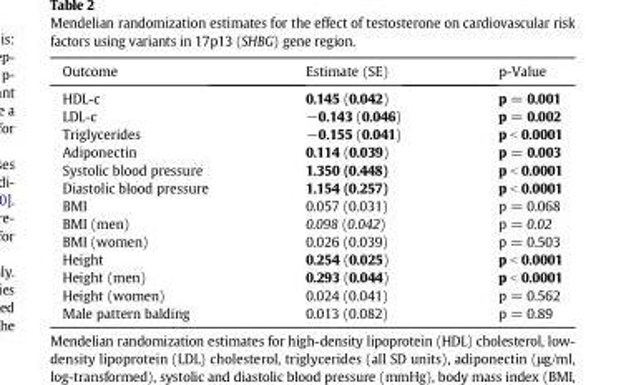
<table><thead><tr><td>Outcome</td><td>Estimate (SE)</td><td>p-Value</td></tr></thead><tbody><tr><td>HDL-c</td><td>0.145 (0.042)</td><td>p = 0.001</td></tr><tr><td>LDL-c</td><td>−0.143 (0.046)</td><td>p = 0.002</td></tr><tr><td>Triglycerides</td><td>−0.155 (0.041)</td><td>p &lt; 0.0001</td></tr><tr><td>Adiponectin</td><td>0.114 (0.039)</td><td>p = 0.003</td></tr><tr><td>Systolic blood pressure</td><td>1.350 (0.448)</td><td>p &lt; 0.0001</td></tr><tr><td>Diastolic blood pressure</td><td>1.154 (0.257)</td><td>p &lt; 0.0001</td></tr><tr><td>BMI</td><td>0.057 (0.031)</td><td>p = 0.068</td></tr><tr><td>BMI (men)</td><td>0.098 (0.042)</td><td>p = 0.02</td></tr><tr><td>BMI (women)</td><td>0.026 (0.039)</td><td>p = 0.503</td></tr><tr><td>Height</td><td>0.254 (0.025)</td><td>p &lt; 0.0001</td></tr><tr><td>Height (men)</td><td>0.293 (0.044)</td><td>p &lt; 0.0001</td></tr><tr><td>Height (women)</td><td>0.024 (0.041)</td><td>p = 0.562</td></tr><tr><td>Male pattern balding</td><td>0.013 (0.082)</td><td>p = 0.89</td></tr></tbody></table>